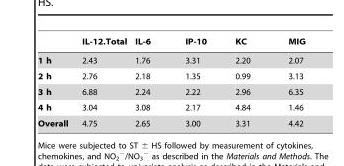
<table><thead><tr><td></td><td>IL-12.Total</td><td>IL-6</td><td>IP-10</td><td>KC</td><td>MIG</td></tr></thead><tbody><tr><td>1 h</td><td>2.43</td><td>1.76</td><td>3.31</td><td>2.20</td><td>2.07</td></tr><tr><td>2 h</td><td>2.76</td><td>2.18</td><td>1.35</td><td>0.99</td><td>3.13</td></tr><tr><td>3 h</td><td>6.88</td><td>2.24</td><td>2.22</td><td>2.96</td><td>6.35</td></tr><tr><td>4 h</td><td>3.04</td><td>3.08</td><td>2.17</td><td>4.84</td><td>1.46</td></tr><tr><td>Overall</td><td>4.75</td><td>2.65</td><td>3.00</td><td>3.31</td><td>4.42</td></tr></tbody></table>